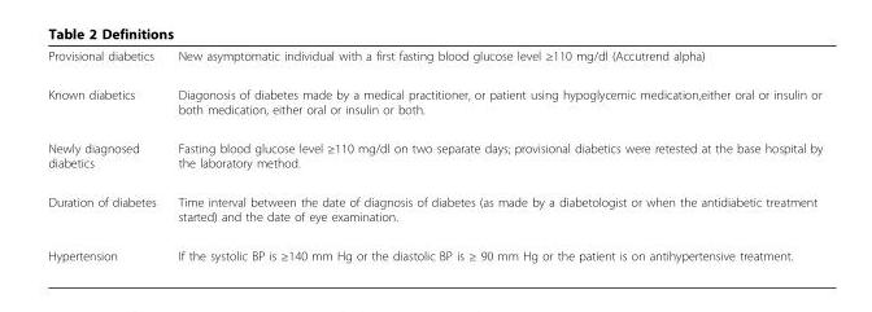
<table><tbody><tr><td>Provisional diabetics</td><td>New asymptomatic individual with a first fasting blood glucose level ≥110 mg/dl (Accutrend alpha)</td></tr><tr><td>Known diabetics</td><td>Diagonosis of diabetes made by a medical practitioner, or patient using hypoglycemic medication,either oral or insulin or both medication, either oral or insulin or both.</td></tr><tr><td>Newly diagnosed diabetics</td><td>Fasting blood glucose level ≥110 mg/dl on two separate days; provisional diabetics were retested at the base hospital by the laboratory method.</td></tr><tr><td>Duration of diabetes</td><td>Time interval between the date of diagnosis of diabetes (as made by a diabetologist or when the antidiabetic treatment started) and the date of eye examination.</td></tr><tr><td>Hypertension</td><td>If the systolic BP is ≥140 mm Hg or the diastolic BP is ≥ 90 mm Hg or the patient is on antihypertensive treatment.</td></tr></tbody></table>